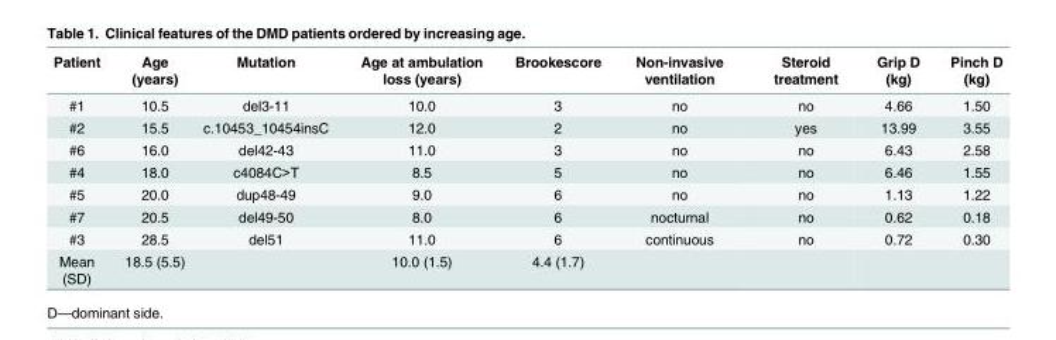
<table><thead><tr><td>Patient</td><td>Age (years)</td><td>Mutation</td><td>Age at ambulation loss (years)</td><td>Brookescore</td><td>Non-invasive ventilation</td><td>Steroid treatment</td><td>Grip D (kg)</td><td>Pinch D (kg)</td></tr></thead><tbody><tr><td>#1</td><td>10.5</td><td>del3-11</td><td>10.0</td><td>3</td><td>no</td><td>no</td><td>4.66</td><td>1.50</td></tr><tr><td>#2</td><td>15.5</td><td>c.10453_10454insC</td><td>12.0</td><td>2</td><td>no</td><td>yes</td><td>13.99</td><td>3.55</td></tr><tr><td>#6</td><td>16.0</td><td>del42-43</td><td>11.0</td><td>3</td><td>no</td><td>no</td><td>6.43</td><td>2.58</td></tr><tr><td>#4</td><td>18.0</td><td>c4084C&gt;T</td><td>8.5</td><td>5</td><td>no</td><td>no</td><td>6.46</td><td>1.55</td></tr><tr><td>#5</td><td>20.0</td><td>dup48-49</td><td>9.0</td><td>6</td><td>no</td><td>no</td><td>1.13</td><td>1.22</td></tr><tr><td>#7</td><td>20.5</td><td>del49-50</td><td>8.0</td><td>6</td><td>nocturnal</td><td>no</td><td>0.62</td><td>0.18</td></tr><tr><td>#3</td><td>28.5</td><td>del51</td><td>11.0</td><td>6</td><td>continuous</td><td>no</td><td>0.72</td><td>0.30</td></tr><tr><td>Mean (SD)</td><td>18.5 (5.5)</td><td></td><td>10.0 (1.5)</td><td>4.4 (1.7)</td><td></td><td></td><td></td><td></td></tr></tbody></table>